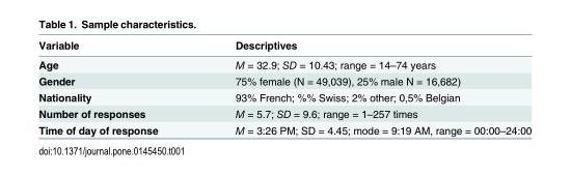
<table><thead><tr><td>Variable</td><td>Descriptives</td></tr></thead><tbody><tr><td>Age</td><td>M = 32.9; SD = 10.43; range = 14–74 years</td></tr><tr><td>Gender</td><td>75% female (N = 49,039), 25% male N = 16,682)</td></tr><tr><td>Nationality</td><td>93% French; %% Swiss; 2% other; 0,5% Belgian</td></tr><tr><td>Number of responses</td><td>M = 5.7; SD = 9.6; range = 1–257 times</td></tr><tr><td>Time of day of response</td><td>M = 3:26 PM; SD = 4.45; mode = 9:19 AM, range = 00:00–24:00</td></tr></tbody></table>